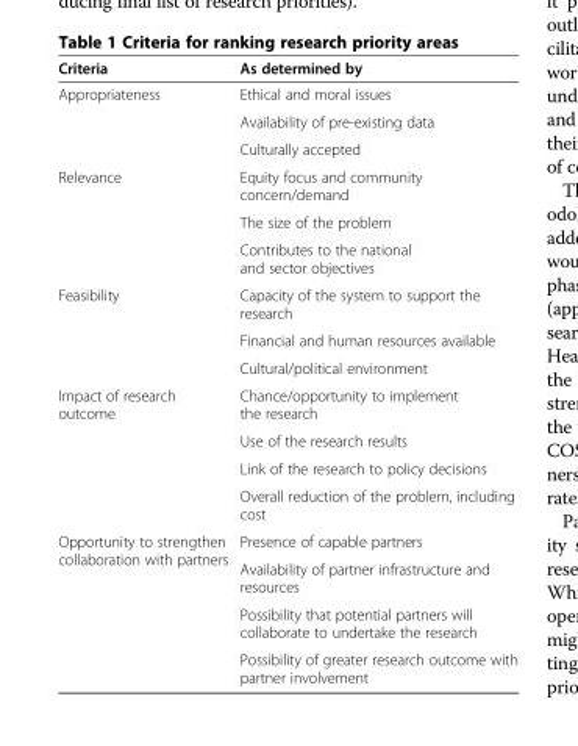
<table><thead><tr><td>Criteria</td><td>As determined by</td></tr></thead><tbody><tr><td rowspan="3">Appropriateness</td><td>Ethical and moral issues</td></tr><tr><td>Availability of pre-existing data</td></tr><tr><td>Culturally accepted</td></tr><tr><td rowspan="3">Relevance</td><td>Equity focus and community concern/demand</td></tr><tr><td>The size of the problem</td></tr><tr><td>Contributes to the national and sector objectives</td></tr><tr><td rowspan="3">Feasibility</td><td>Capacity of the system to support the research</td></tr><tr><td>Financial and human resources available</td></tr><tr><td>Cultural/political environment</td></tr><tr><td rowspan="4">Impact of research outcome</td><td>Chance/opportunity to implement the research</td></tr><tr><td>Use of the research results</td></tr><tr><td>Link of the research to policy decisions</td></tr><tr><td>Overall reduction of the problem, including cost</td></tr><tr><td rowspan="4">Opportunity to strengthen collaboration with partners</td><td>Presence of capable partners</td></tr><tr><td>Availability of partner infrastructure and resources</td></tr><tr><td>Possibility that potential partners will collaborate to undertake the research</td></tr><tr><td>Possibility of greater research outcome with partner involvement</td></tr></tbody></table>